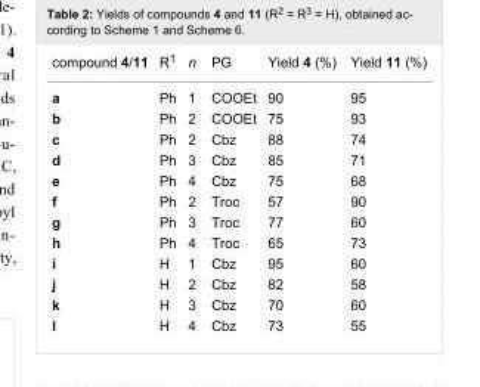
<table><tbody><tr><td>compound 4/11</td><td>R<sup>1</sup></td><td>n</td><td>PG</td><td>Yield 4 (%)</td><td>Yield 11 (%)</td></tr><tr><td>a</td><td>Ph</td><td>1</td><td>COOEt</td><td>90</td><td>95</td></tr><tr><td>b</td><td>Ph</td><td>2</td><td>COOEt</td><td>75</td><td>93</td></tr><tr><td>c</td><td>Ph</td><td>2</td><td>Cbz</td><td>88</td><td>74</td></tr><tr><td>d</td><td>Ph</td><td>3</td><td>Cbz</td><td>85</td><td>71</td></tr><tr><td>e</td><td>Ph</td><td>4</td><td>Cbz</td><td>75</td><td>68</td></tr><tr><td>f</td><td>Ph</td><td>2</td><td>Troc</td><td>57</td><td>90</td></tr><tr><td>g</td><td>Ph</td><td>3</td><td>Troc</td><td>77</td><td>60</td></tr><tr><td>h</td><td>Ph</td><td>4</td><td>Troc</td><td>65</td><td>73</td></tr><tr><td>i</td><td>H</td><td>1</td><td>Cbz</td><td>95</td><td>60</td></tr><tr><td>j</td><td>H</td><td>2</td><td>Cbz</td><td>82</td><td>58</td></tr><tr><td>k</td><td>H</td><td>3</td><td>Cbz</td><td>70</td><td>60</td></tr><tr><td>l</td><td>H</td><td>4</td><td>Cbz</td><td>73</td><td>55</td></tr></tbody></table>